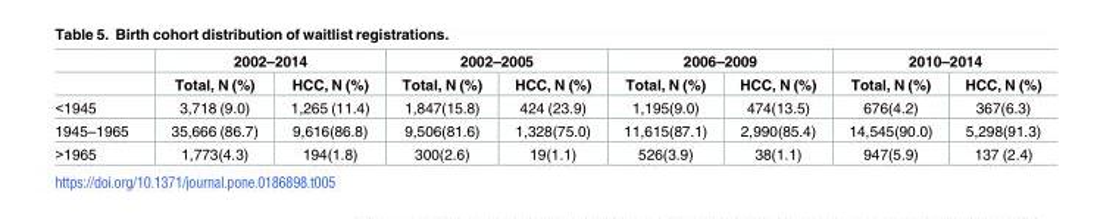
<table><thead><tr><td rowspan="2"></td><td colspan="2">2002–2014</td><td colspan="2">2002–2005</td><td colspan="2">2006–2009</td><td colspan="2">2010–2014</td></tr><tr><td>Total, N (%)</td><td>HCC, N (%)</td><td>Total, N (%)</td><td>HCC, N (%)</td><td>Total, N (%)</td><td>HCC, N (%)</td><td>Total, N (%)</td><td>HCC, N (%)</td></tr></thead><tbody><tr><td>&lt;1945</td><td>3,718 (9.0)</td><td>1,265 (11.4)</td><td>1,847(15.8)</td><td>424 (23.9)</td><td>1,195(9.0)</td><td>474(13.5)</td><td>676(4.2)</td><td>367(6.3)</td></tr><tr><td>1945–1965</td><td>35,666 (86.7)</td><td>9,616(86.8)</td><td>9,506(81.6)</td><td>1,328(75.0)</td><td>11,615(87.1)</td><td>2,990(85.4)</td><td>14,545(90.0)</td><td>5,298(91.3)</td></tr><tr><td>&gt;1965</td><td>1,773(4.3)</td><td>194(1.8)</td><td>300(2.6)</td><td>19(1.1)</td><td>526(3.9)</td><td>38(1.1)</td><td>947(5.9)</td><td>137 (2.4)</td></tr></tbody></table>